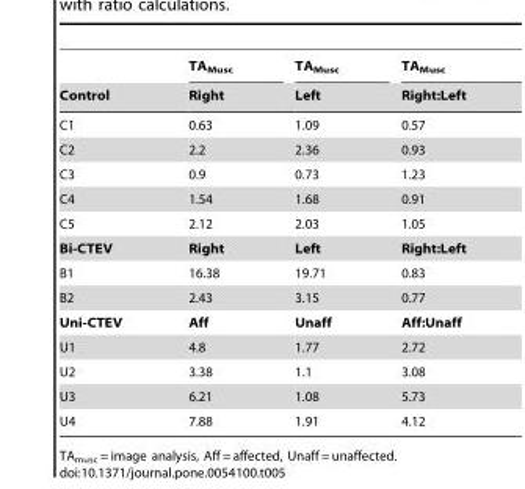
<table><thead><tr><td rowspan="2">Control</td><td rowspan="2">TAMusc Right</td><td rowspan="2">TAMusc Left</td><td rowspan="2">TAMusc Right:Left</td></tr><tr></tr></thead><tbody><tr><td>C1</td><td>0.63</td><td>1.09</td><td>0.57</td></tr><tr><td>C2</td><td>2.2</td><td>2.36</td><td>0.93</td></tr><tr><td>C3</td><td>0.9</td><td>0.73</td><td>1.23</td></tr><tr><td>C4</td><td>1.54</td><td>1.68</td><td>0.91</td></tr><tr><td>C5</td><td>2.12</td><td>2.03</td><td>1.05</td></tr><tr><td>Bi-CTEV</td><td>Right</td><td>Left</td><td>Right:Left</td></tr><tr><td>B1</td><td>16.38</td><td>19.71</td><td>0.83</td></tr><tr><td>B2</td><td>2.43</td><td>3.15</td><td>0.77</td></tr><tr><td>Uni-CTEV</td><td>Aff</td><td>Unaff</td><td>Aff:Unaff</td></tr><tr><td>U1</td><td>4.8</td><td>1.77</td><td>2.72</td></tr><tr><td>U2</td><td>3.38</td><td>1.1</td><td>3.08</td></tr><tr><td>U3</td><td>6.21</td><td>1.08</td><td>5.73</td></tr><tr><td>U4</td><td>7.88</td><td>1.91</td><td>4.12</td></tr></tbody></table>